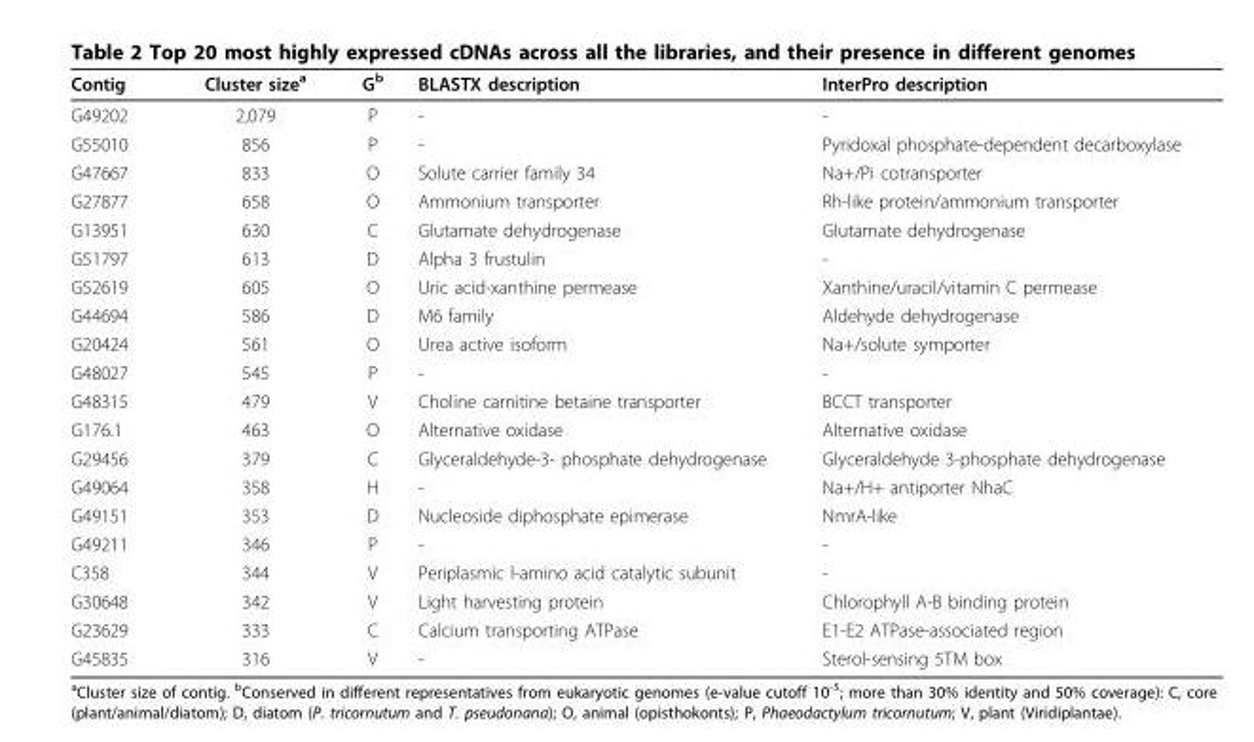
<table><thead><tr><td>Contig</td><td>Cluster size<sup>a</sup></td><td>G<sup>b</sup></td><td>BLASTX description</td><td>InterPro description</td></tr></thead><tbody><tr><td>G49202</td><td>2,079</td><td>P</td><td>-</td><td>-</td></tr><tr><td>G55010</td><td>856</td><td>P</td><td>-</td><td>Pyridoxal phosphate-dependent decarboxylase</td></tr><tr><td>G47667</td><td>833</td><td>O</td><td>Solute carrier family 34</td><td>Na+/Pi cotransporter</td></tr><tr><td>G27877</td><td>658</td><td>O</td><td>Ammonium transporter</td><td>Rh-like protein/ammonium transporter</td></tr><tr><td>G13951</td><td>630</td><td>C</td><td>Glutamate dehydrogenase</td><td>Glutamate dehydrogenase</td></tr><tr><td>G51797</td><td>613</td><td>D</td><td>Alpha 3 frustulin</td><td>-</td></tr><tr><td>G52619</td><td>605</td><td>O</td><td>Uric acid-xanthine permease</td><td>Xanthine/uracil/vitamin C permease</td></tr><tr><td>G44694</td><td>586</td><td>D</td><td>M6 family</td><td>Aldehyde dehydrogenase</td></tr><tr><td>G20424</td><td>561</td><td>O</td><td>Urea active isoform</td><td>Na+/solute symporter</td></tr><tr><td>G48027</td><td>545</td><td>P</td><td>-</td><td>-</td></tr><tr><td>G48315</td><td>479</td><td>V</td><td>Choline carnitine betaine transporter</td><td>BCCT transporter</td></tr><tr><td>G176.1</td><td>463</td><td>O</td><td>Alternative oxidase</td><td>Alternative oxidase</td></tr><tr><td>G29456</td><td>379</td><td>C</td><td>Glyceraldehyde-3- phosphate dehydrogenase</td><td>Glyceraldehyde 3-phosphate dehydrogenase</td></tr><tr><td>G49064</td><td>358</td><td>H</td><td>-</td><td>Na+/H+ antiporter NhaC</td></tr><tr><td>G49151</td><td>353</td><td>D</td><td>Nucleoside diphosphate epimerase</td><td>NmrA-like</td></tr><tr><td>G49211</td><td>346</td><td>P</td><td>-</td><td>-</td></tr><tr><td>C358</td><td>344</td><td>V</td><td>Periplasmic l-amino acid catalytic subunit</td><td>-</td></tr><tr><td>G30648</td><td>342</td><td>V</td><td>Light harvesting protein</td><td>Chlorophyll A-B binding protein</td></tr><tr><td>G23629</td><td>333</td><td>C</td><td>Calcium transporting ATPase</td><td>E1-E2 ATPase-associated region</td></tr><tr><td>G45835</td><td>316</td><td>V</td><td>-</td><td>Sterol-sensing 5TM box</td></tr></tbody></table>